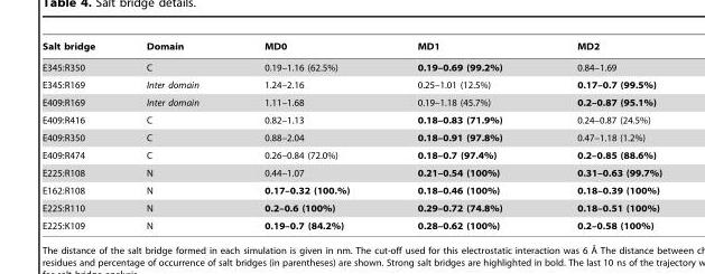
<table><thead><tr><td>Salt bridge</td><td>Domain</td><td>MD0</td><td>MD1</td><td>MD2</td></tr></thead><tbody><tr><td>E345:R350</td><td>C</td><td>0.19–1.16 (62.5%)</td><td>0.19–0.69 (99.2%)</td><td>0.84–1.69</td></tr><tr><td>E345:R169</td><td>Inter domain</td><td>1.24–2.16</td><td>0.25–1.01 (12.5%)</td><td>0.17–0.7 (99.5%)</td></tr><tr><td>E409:R169</td><td>Inter domain</td><td>1.11–1.68</td><td>0.19–1.18 (45.7%)</td><td>0.2–0.87 (95.1%)</td></tr><tr><td>E409:R416</td><td>C</td><td>0.82–1.13</td><td>0.18–0.83 (71.9%)</td><td>0.24–0.87 (24.5%)</td></tr><tr><td>E409:R350</td><td>C</td><td>0.88–2.04</td><td>0.18–0.91 (97.8%)</td><td>0.47–1.18 (1.2%)</td></tr><tr><td>E409:R474</td><td>C</td><td>0.26–0.84 (72.0%)</td><td>0.18–0.7 (97.4%)</td><td>0.2–0.85 (88.6%)</td></tr><tr><td>E225:R108</td><td>N</td><td>0.44–1.07</td><td>0.21–0.54 (100%)</td><td>0.31–0.63 (99.7%)</td></tr><tr><td>E162:R108</td><td>N</td><td>0.17–0.32 (100.%)</td><td>0.18–0.46 (100%)</td><td>0.18–0.39 (100%)</td></tr><tr><td>E225:R110</td><td>N</td><td>0.2–0.6 (100%)</td><td>0.29–0.72 (74.8%)</td><td>0.18–0.51 (100%)</td></tr><tr><td>E225:K109</td><td>N</td><td>0.19–0.7 (84.2%)</td><td>0.28–0.62 (100%)</td><td>0.2–0.58 (100%)</td></tr></tbody></table>